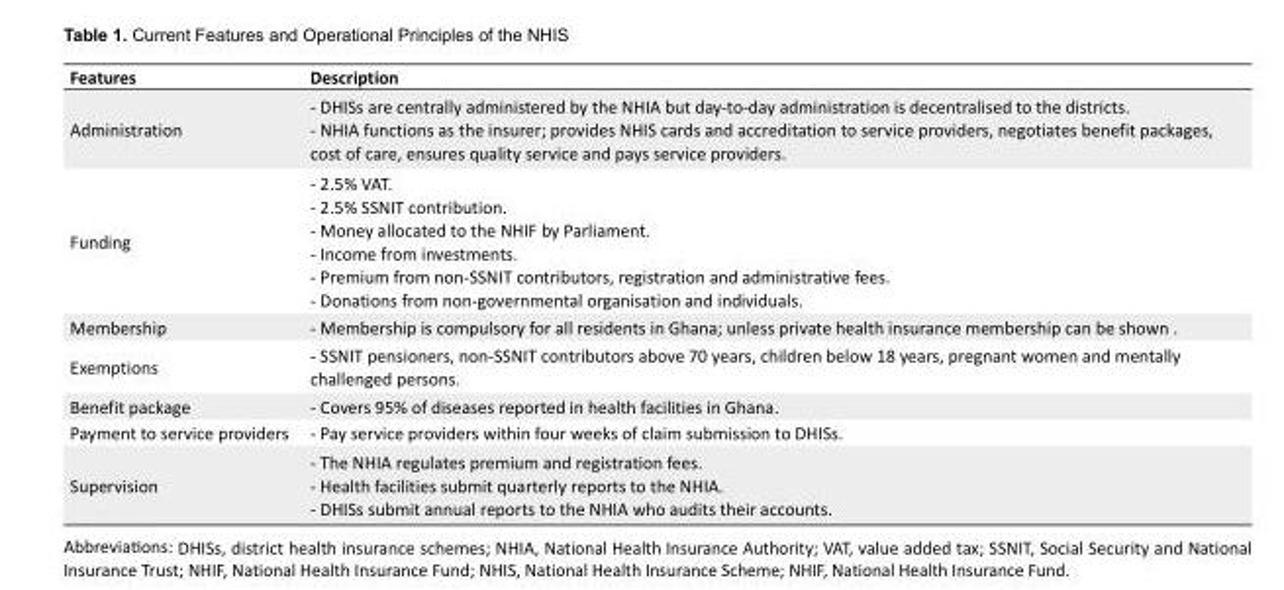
<table><tbody><tr><td>Features</td><td>Description</td></tr><tr><td>Administration</td><td>- DHISs are centrally administered by the NHIA but day-to-day administration is decentralised to the districts. - NHIA functions as the insurer; provides NHIS cards and accreditation to service providers, negotiates benefit packages, cost of care, ensures quality service and pays service providers.</td></tr><tr><td>Funding</td><td>- 2.5% VAT. - 2.5% SSNIT contribution. - Money allocated to the NHIF by Parliament. - Income from investments. - Premium from non-SSNIT contributors, registration and administrative fees. - Donations from non-governmental organisation and individuals.</td></tr><tr><td>Membership</td><td>- Membership is compulsory for all residents in Ghana; unless private health insurance membership can be shown .</td></tr><tr><td>Exemptions</td><td>- SSNIT pensioners, non-SSNIT contributors above 70 years, children below 18 years, pregnant women and mentally challenged persons.</td></tr><tr><td>Benefit package</td><td>- Covers 95% of diseases reported in health facilities in Ghana.</td></tr><tr><td>Payment to service providers</td><td>- Pay service providers within four weeks of claim submission to DHISs.</td></tr><tr><td>Supervision</td><td>- The NHIA regulates premium and registration fees. - Health facilities submit quarterly reports to the NHIA. - DHISs submit annual reports to the NHIA who audits their accounts.</td></tr></tbody></table>